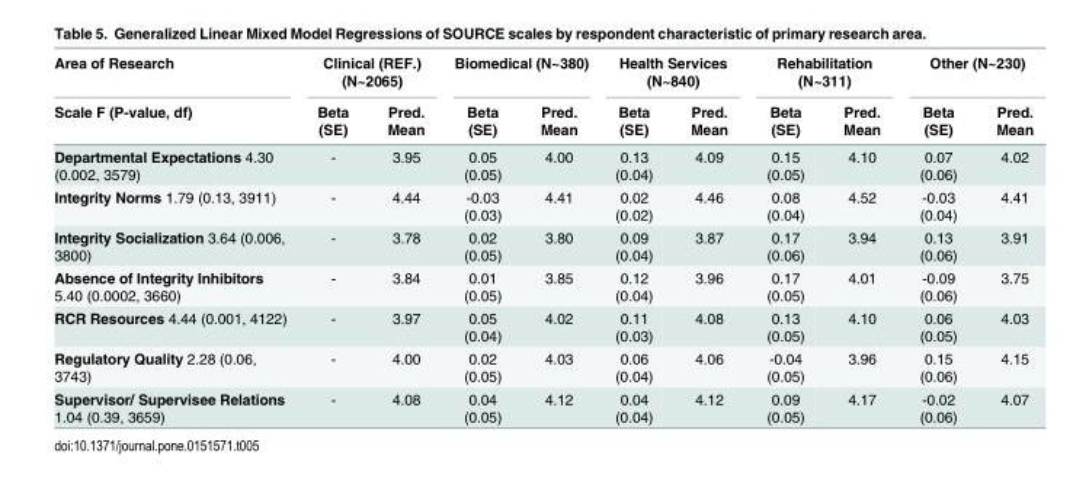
<table><thead><tr><td rowspan="2">Area of Research Scale F (P-value, df)</td><td colspan="2">Clinical (REF.) (N~2065)</td><td colspan="2">Biomedical (N~380)</td><td colspan="2">Health Services (N~840)</td><td colspan="2">Rehabilitation (N~311)</td><td colspan="2">Other (N~230)</td></tr><tr><td>Beta (SE)</td><td>Pred. Mean</td><td>Beta (SE)</td><td>Pred. Mean</td><td>Beta (SE)</td><td>Pred. Mean</td><td>Beta (SE)</td><td>Pred. Mean</td><td>Beta (SE)</td><td>Pred. Mean</td></tr></thead><tbody><tr><td>Departmental Expectations 4.30 (0.002, 3579)</td><td>-</td><td>3.95</td><td>0.05 (0.05)</td><td>4.00</td><td>0.13 (0.04)</td><td>4.09</td><td>0.15 (0.05)</td><td>4.10</td><td>0.07 (0.06)</td><td>4.02</td></tr><tr><td>Integrity Norms 1.79 (0.13, 3911)</td><td>-</td><td>4.44</td><td>-0.03 (0.03)</td><td>4.41</td><td>0.02 (0.02)</td><td>4.46</td><td>0.08 (0.04)</td><td>4.52</td><td>-0.03 (0.04)</td><td>4.41</td></tr><tr><td>Integrity Socialization 3.64 (0.006, 3800)</td><td>-</td><td>3.78</td><td>0.02 (0.05)</td><td>3.80</td><td>0.09 (0.04)</td><td>3.87</td><td>0.17 (0.06)</td><td>3.94</td><td>0.13 (0.06)</td><td>3.91</td></tr><tr><td>Absence of Integrity Inhibitors 5.40 (0.0002, 3660)</td><td>-</td><td>3.84</td><td>0.01 (0.05)</td><td>3.85</td><td>0.12 (0.04)</td><td>3.96</td><td>0.17 (0.05)</td><td>4.01</td><td>-0.09 (0.06)</td><td>3.75</td></tr><tr><td>RCR Resources 4.44 (0.001, 4122)</td><td>-</td><td>3.97</td><td>0.05 (0.04)</td><td>4.02</td><td>0.11 (0.03)</td><td>4.08</td><td>0.13 (0.05)</td><td>4.10</td><td>0.06 (0.05)</td><td>4.03</td></tr><tr><td>Regulatory Quality 2.28 (0.06, 3743)</td><td>-</td><td>4.00</td><td>0.02 (0.05)</td><td>4.03</td><td>0.06 (0.04)</td><td>4.06</td><td>-0.04 (0.05)</td><td>3.96</td><td>0.15 (0.06)</td><td>4.15</td></tr><tr><td>Supervisor/ Supervisee Relations 1.04 (0.39, 3659)</td><td>-</td><td>4.08</td><td>0.04 (0.05)</td><td>4.12</td><td>0.04 (0.04)</td><td>4.12</td><td>0.09 (0.05)</td><td>4.17</td><td>-0.02 (0.06)</td><td>4.07</td></tr></tbody></table>